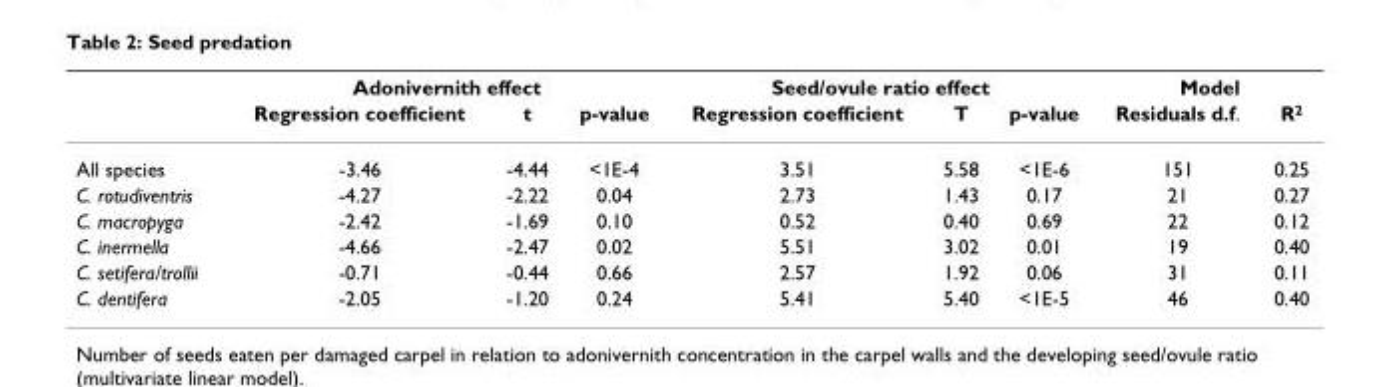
<table><thead><tr><td rowspan="2"></td><td colspan="3">Adonivernith effect</td><td colspan="3">Seed/ovule ratio effect</td><td colspan="2">Model</td></tr><tr><td>Regression coefficient</td><td>t</td><td>p-value</td><td>Regression coefficient</td><td>T</td><td>p-value</td><td>Residuals d.f.</td><td>R<sup>2</sup></td></tr></thead><tbody><tr><td>All species</td><td>-3.46</td><td>-4.44</td><td>&lt;1E-4</td><td>3.51</td><td>5.58</td><td>&lt;1E-6</td><td>151</td><td>0.25</td></tr><tr><td>C. rotudiventris</td><td>-4.27</td><td>-2.22</td><td>0.04</td><td>2.73</td><td>1.43</td><td>0.17</td><td>21</td><td>0.27</td></tr><tr><td>C. macropyga</td><td>-2.42</td><td>-1.69</td><td>0.10</td><td>0.52</td><td>0.40</td><td>0.69</td><td>22</td><td>0.12</td></tr><tr><td>C. inermella</td><td>-4.66</td><td>-2.47</td><td>0.02</td><td>5.51</td><td>3.02</td><td>0.01</td><td>19</td><td>0.40</td></tr><tr><td>C. setifera/trollii</td><td>-0.71</td><td>-0.44</td><td>0.66</td><td>2.57</td><td>1.92</td><td>0.06</td><td>31</td><td>0.11</td></tr><tr><td>C. dentifera</td><td>-2.05</td><td>-1.20</td><td>0.24</td><td>5.41</td><td>5.40</td><td>&lt;1E-5</td><td>46</td><td>0.40</td></tr></tbody></table>